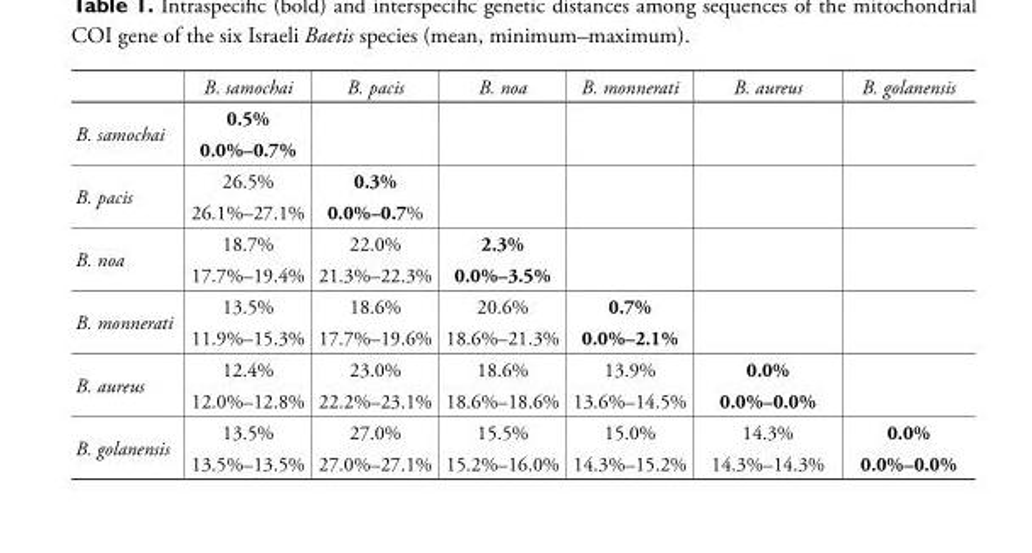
<table><thead><tr><td></td><td>B. samochai</td><td>B. pacis</td><td>B. noa</td><td>B. monnerati</td><td>B. aureus</td><td>B. golanensis</td></tr></thead><tbody><tr><td rowspan="2">B. samochai</td><td>0.5%</td><td></td><td></td><td></td><td></td><td></td></tr><tr><td>0.0%–0.7%</td><td></td><td></td><td></td><td></td><td></td></tr><tr><td rowspan="2">B. pacis</td><td>26.5%</td><td>0.3%</td><td></td><td></td><td></td><td></td></tr><tr><td>26.1%–27.1%</td><td>0.0%–0.7%</td><td></td><td></td><td></td><td></td></tr><tr><td rowspan="2">B. noa</td><td>18.7%</td><td>22.0%</td><td>2.3%</td><td></td><td></td><td></td></tr><tr><td>17.7%–19.4%</td><td>21.3%–22.3%</td><td>0.0%–3.5%</td><td></td><td></td><td></td></tr><tr><td rowspan="2">B. monnerati</td><td>13.5%</td><td>18.6%</td><td>20.6%</td><td>0.7%</td><td></td><td></td></tr><tr><td>11.9%–15.3%</td><td>17.7%–19.6%</td><td>18.6%–21.3%</td><td>0.0%–2.1%</td><td></td><td></td></tr><tr><td rowspan="2">B. aureus</td><td>12.4%</td><td>23.0%</td><td>18.6%</td><td>13.9%</td><td>0.0%</td><td></td></tr><tr><td>12.0%–12.8%</td><td>22.2%–23.1%</td><td>18.6%–18.6%</td><td>13.6%–14.5%</td><td>0.0%–0.0%</td><td></td></tr><tr><td rowspan="2">B. golanensis</td><td>13.5%</td><td>27.0%</td><td>15.5%</td><td>15.0%</td><td>14.3%</td><td>0.0%</td></tr><tr><td>13.5%–13.5%</td><td>27.0%–27.1%</td><td>15.2%–16.0%</td><td>14.3%–15.2%</td><td>14.3%–14.3%</td><td>0.0%–0.0%</td></tr></tbody></table>